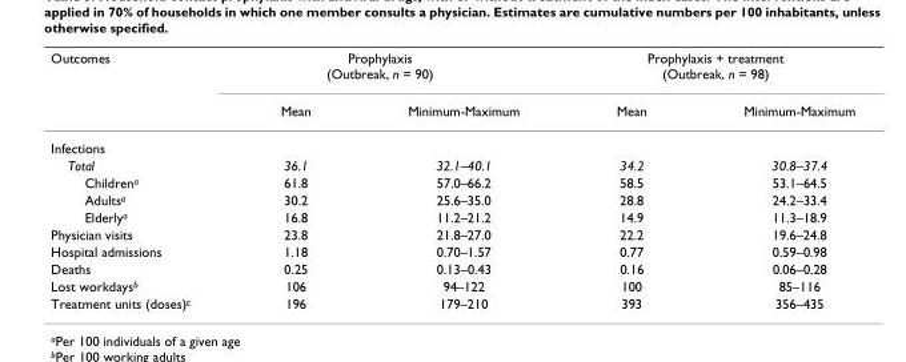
<table><thead><tr><td rowspan="2">Outcomes</td><td colspan="2">Prophylaxis (Outbreak, n = 90)</td><td colspan="2">Prophylaxis + treatment (Outbreak, n = 98)</td></tr><tr><td>Mean</td><td>Minimum-Maximum</td><td>Mean</td><td>Minimum-Maximum</td></tr></thead><tbody><tr><td colspan="5">Infections</td></tr><tr><td>Total</td><td>36.1</td><td>32.1–40.1</td><td>34.2</td><td>30.8–37.4</td></tr><tr><td>Childrena</td><td>61.8</td><td>57.0–66.2</td><td>58.5</td><td>53.1–64.5</td></tr><tr><td>Adultsa</td><td>30.2</td><td>25.6–35.0</td><td>28.8</td><td>24.2–33.4</td></tr><tr><td>Elderlya</td><td>16.8</td><td>11.2–21.2</td><td>14.9</td><td>11.3–18.9</td></tr><tr><td>Physician visits</td><td>23.8</td><td>21.8–27.0</td><td>22.2</td><td>19.6–24.8</td></tr><tr><td>Hospital admissions</td><td>1.18</td><td>0.70–1.57</td><td>0.77</td><td>0.59–0.98</td></tr><tr><td>Deaths</td><td>0.25</td><td>0.13–0.43</td><td>0.16</td><td>0.06–0.28</td></tr><tr><td>Lost workdaysb</td><td>106</td><td>94–122</td><td>100</td><td>85–116</td></tr><tr><td>Treatment units (doses)c</td><td>196</td><td>179–210</td><td>393</td><td>356–435</td></tr></tbody></table>